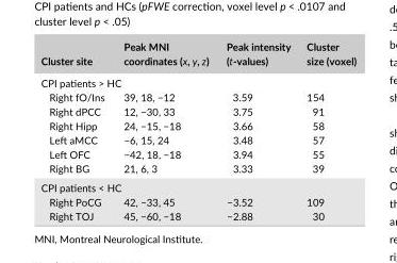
<table><thead><tr><td>Cluster site</td><td>Peak MNI coordinates (x, y, z)</td><td>Peak intensity (t- values)</td><td>Cluster size (voxel)</td></tr></thead><tbody><tr><td colspan="4">CPI patients &gt; HC</td></tr><tr><td>Right fO/Ins</td><td>39, 18, −12</td><td>3.59</td><td>154</td></tr><tr><td>Right dPCC</td><td>12, −30, 33</td><td>3.75</td><td>91</td></tr><tr><td>Right Hipp</td><td>24, −15, −18</td><td>3.66</td><td>58</td></tr><tr><td>Left aMCC</td><td>−6, 15, 24</td><td>3.48</td><td>57</td></tr><tr><td>Left OFC</td><td>−42, 18, −18</td><td>3.94</td><td>55</td></tr><tr><td>Right BG</td><td>21, 6, 3</td><td>3.33</td><td>39</td></tr><tr><td colspan="4">CPI patients &lt; HC</td></tr><tr><td>Right PoCG</td><td>42, −33, 45</td><td>−3.52</td><td>109</td></tr><tr><td>Right TOJ</td><td>45, −60, −18</td><td>−2.88</td><td>30</td></tr></tbody></table>